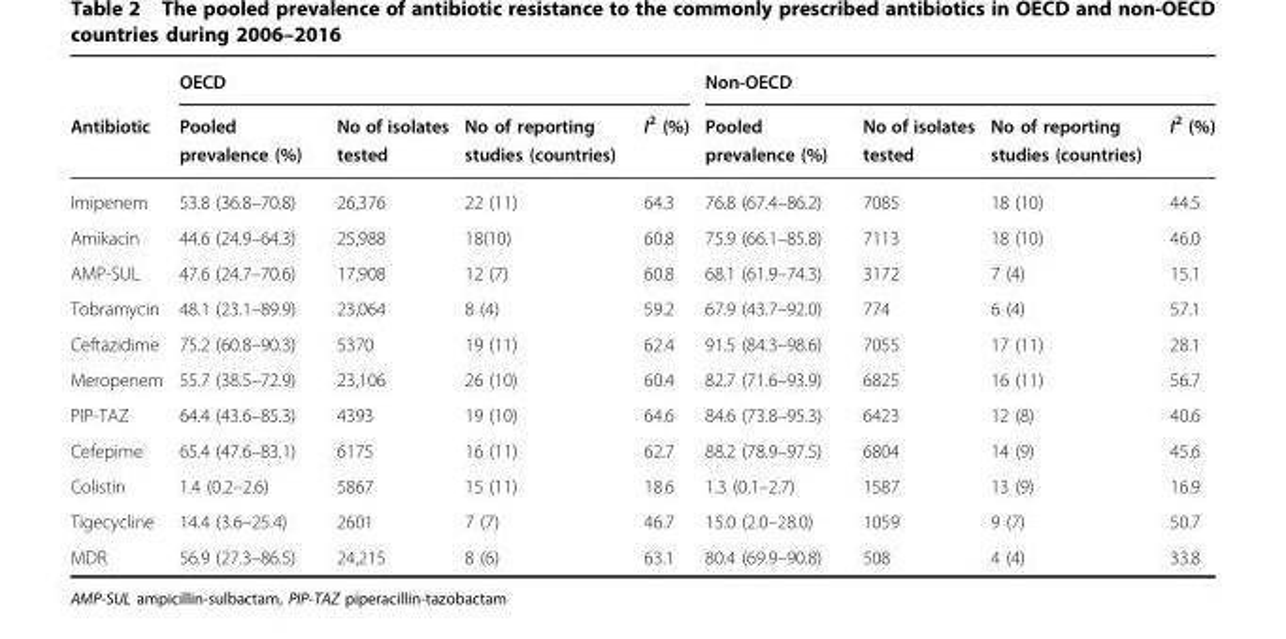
<table><thead><tr><td rowspan="2">Antibiotic</td><td colspan="4">OECD</td><td colspan="4">Non-OECD</td></tr><tr><td>Pooled prevalence (%)</td><td>No of isolates tested</td><td>No of reporting studies (countries)</td><td>I<sup>2</sup> (%)</td><td>Pooled prevalence (%)</td><td>No of isolates tested</td><td>No of reporting studies (countries)</td><td>I<sup>2</sup> (%)</td></tr></thead><tbody><tr><td>Imipenem</td><td>53.8 (36.8–70.8)</td><td>26,376</td><td>22 (11)</td><td>64.3</td><td>76.8 (67.4–86.2)</td><td>7085</td><td>18 (10)</td><td>44.5</td></tr><tr><td>Amikacin</td><td>44.6 (24.9–64.3)</td><td>25,988</td><td>18(10)</td><td>60.8</td><td>75.9 (66.1–85.8)</td><td>7113</td><td>18 (10)</td><td>46.0</td></tr><tr><td>AMP-SUL</td><td>47.6 (24.7–70.6)</td><td>17,908</td><td>12 (7)</td><td>60.8</td><td>68.1 (61.9–74.3)</td><td>3172</td><td>7 (4)</td><td>15.1</td></tr><tr><td>Tobramycin</td><td>48.1 (23.1–89.9)</td><td>23,064</td><td>8 (4)</td><td>59.2</td><td>67.9 (43.7–92.0)</td><td>774</td><td>6 (4)</td><td>57.1</td></tr><tr><td>Ceftazidime</td><td>75.2 (60.8–90.3)</td><td>5370</td><td>19 (11)</td><td>62.4</td><td>91.5 (84.3–98.6)</td><td>7055</td><td>17 (11)</td><td>28.1</td></tr><tr><td>Meropenem</td><td>55.7 (38.5–72.9)</td><td>23,106</td><td>26 (10)</td><td>60.4</td><td>82.7 (71.6–93.9)</td><td>6825</td><td>16 (11)</td><td>56.7</td></tr><tr><td>PIP-TAZ</td><td>64.4 (43.6–85.3)</td><td>4393</td><td>19 (10)</td><td>64.6</td><td>84.6 (73.8–95.3)</td><td>6423</td><td>12 (8)</td><td>40.6</td></tr><tr><td>Cefepime</td><td>65.4 (47.6–83.1)</td><td>6175</td><td>16 (11)</td><td>62.7</td><td>88.2 (78.9–97.5)</td><td>6804</td><td>14 (9)</td><td>45.6</td></tr><tr><td>Colistin</td><td>1.4 (0.2–2.6)</td><td>5867</td><td>15 (11)</td><td>18.6</td><td>1.3 (0.1–2.7)</td><td>1587</td><td>13 (9)</td><td>16.9</td></tr><tr><td>Tigecycline</td><td>14.4 (3.6–25.4)</td><td>2601</td><td>7 (7)</td><td>46.7</td><td>15.0 (2.0–28.0)</td><td>1059</td><td>9 (7)</td><td>50.7</td></tr><tr><td>MDR</td><td>56.9 (27.3–86.5)</td><td>24,215</td><td>8 (6)</td><td>63.1</td><td>80.4 (69.9–90.8)</td><td>508</td><td>4 (4)</td><td>33.8</td></tr></tbody></table>